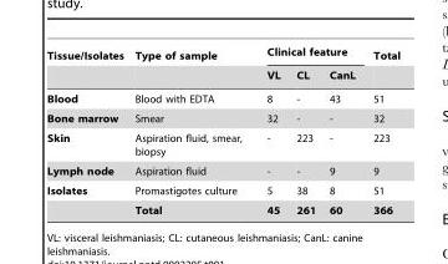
<table><thead><tr><td rowspan="2">Tissue/Isolates</td><td rowspan="2">Type of sample</td><td colspan="3">Clinical feature</td><td rowspan="2">Total</td></tr><tr><td>VL</td><td>CL</td><td>CanL</td></tr></thead><tbody><tr><td>Blood</td><td>Blood with EDTA</td><td>8</td><td>-</td><td>43</td><td>51</td></tr><tr><td>Bone marrow</td><td>Smear</td><td>32</td><td>-</td><td>-</td><td>32</td></tr><tr><td>Skin</td><td>Aspiration fluid, smear, biopsy</td><td>-</td><td>223</td><td>-</td><td>223</td></tr><tr><td>Lymph node</td><td>Aspiration fluid</td><td>-</td><td>-</td><td>9</td><td>9</td></tr><tr><td rowspan="2">Isolates</td><td>Promastigotes culture</td><td>5</td><td>38</td><td>8</td><td>51</td></tr><tr><td>Total</td><td>45</td><td>261</td><td>60</td><td>366</td></tr></tbody></table>